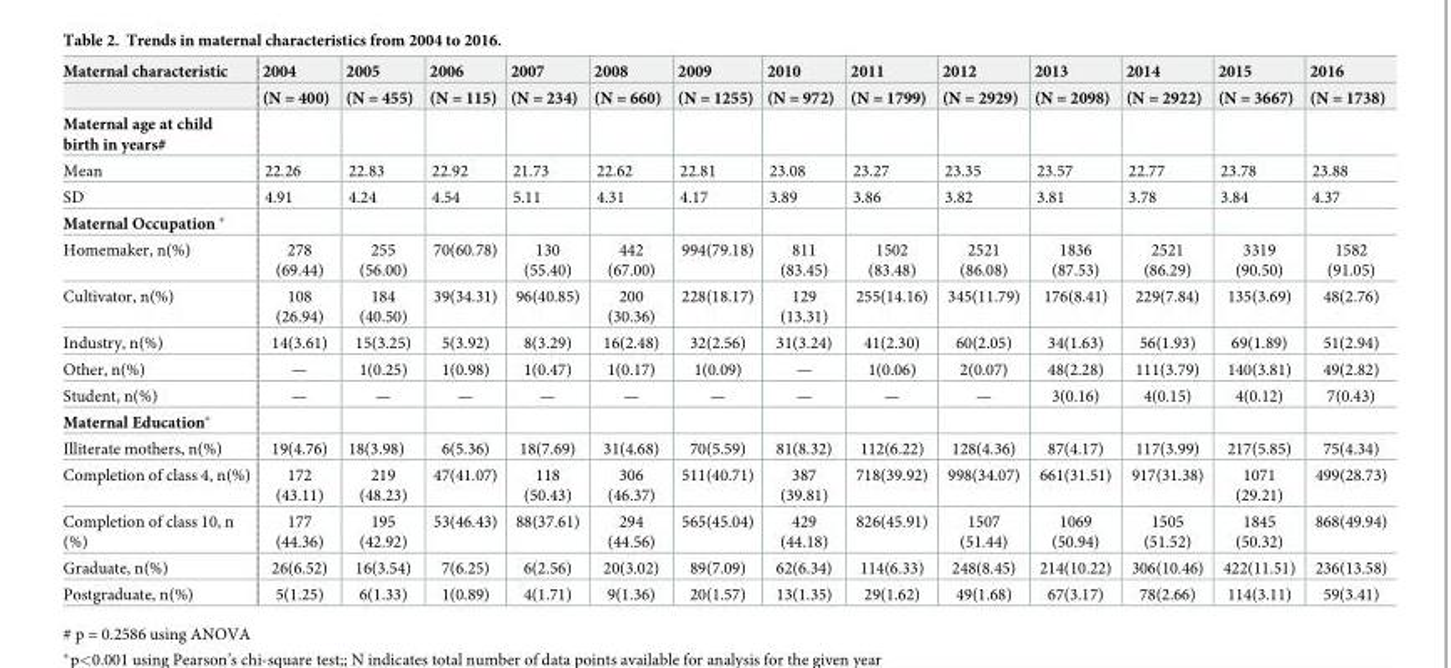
<table><thead><tr><td rowspan="2">Maternal characteristic</td><td rowspan="2">2004 (N = 400)</td><td rowspan="2">2005 (N = 455)</td><td rowspan="2">2006 (N = 115)</td><td rowspan="2">2007 (N = 234)</td><td rowspan="2">2008 (N = 660)</td><td rowspan="2">2009 (N = 1255)</td><td rowspan="2">2010 (N = 972)</td><td rowspan="2">2011 (N = 1799)</td><td rowspan="2">2012 (N = 2929)</td><td rowspan="2">2013 (N = 2098)</td><td rowspan="2">2014 (N = 2922)</td><td rowspan="2">2015 (N = 3667)</td><td rowspan="2">2016 (N = 1738)</td></tr><tr></tr></thead><tbody><tr><td colspan="14">Maternal age at child birth in years#</td></tr><tr><td>Mean</td><td>22.26</td><td>22.83</td><td>22.92</td><td>21.73</td><td>22.62</td><td>22.81</td><td>23.08</td><td>23.27</td><td>23.35</td><td>23.57</td><td>22.77</td><td>23.78</td><td>23.88</td></tr><tr><td>SD</td><td>4.91</td><td>4.24</td><td>4.54</td><td>5.11</td><td>4.31</td><td>4.17</td><td>3.89</td><td>3.86</td><td>3.82</td><td>3.81</td><td>3.78</td><td>3.84</td><td>4.37</td></tr><tr><td colspan="14">Maternal Occupation *</td></tr><tr><td>Homemaker, n(%)</td><td>278 (69.44)</td><td>255 (56.00)</td><td>70(60.78)</td><td>130 (55.40)</td><td>442 (67.00)</td><td>994(79.18)</td><td>811 (83.45)</td><td>1502 (83.48)</td><td>2521 (86.08)</td><td>1836 (87.53)</td><td>2521 (86.29)</td><td>3319 (90.50)</td><td>1582 (91.05)</td></tr><tr><td>Cultivator, n(%)</td><td>108 (26.94)</td><td>184 (40.50)</td><td>39(34.31)</td><td>96(40.85)</td><td>200 (30.36)</td><td>228(18.17)</td><td>129 (13.31)</td><td>255(14.16)</td><td>345(11.79)</td><td>176(8.41)</td><td>229(7.84)</td><td>135(3.69)</td><td>48(2.76)</td></tr><tr><td>Industry, n(%)</td><td>14(3.61)</td><td>15(3.25)</td><td>5(3.92)</td><td>8(3.29)</td><td>16(2.48)</td><td>32(2.56)</td><td>31(3.24)</td><td>41(2.30)</td><td>60(2.05)</td><td>34(1.63)</td><td>56(1.93)</td><td>69(1.89)</td><td>51(2.94)</td></tr><tr><td>Other, n(%)</td><td>—</td><td>1(0.25)</td><td>1(0.98)</td><td>1(0.47)</td><td>1(0.17)</td><td>1(0.09)</td><td>—</td><td>1(0.06)</td><td>2(0.07)</td><td>48(2.28)</td><td>111(3.79)</td><td>140(3.81)</td><td>49(2.82)</td></tr><tr><td>Student, n(%)</td><td>—</td><td>—</td><td>—</td><td>—</td><td>—</td><td>—</td><td>—</td><td>—</td><td>—</td><td>3(0.16)</td><td>4(0.15)</td><td>4(0.12)</td><td>7(0.43)</td></tr><tr><td colspan="14">Maternal Education*</td></tr><tr><td>Illiterate mothers, n(%)</td><td>19(4.76)</td><td>18(3.98)</td><td>6(5.36)</td><td>18(7.69)</td><td>31(4.68)</td><td>70(5.59)</td><td>81(8.32)</td><td>112(6.22)</td><td>128(4.36)</td><td>87(4.17)</td><td>117(3.99)</td><td>217(5.85)</td><td>75(4.34)</td></tr><tr><td>Completion of class 4, n(%)</td><td>172 (43.11)</td><td>219 (48.23)</td><td>47(41.07)</td><td>118 (50.43)</td><td>306 (46.37)</td><td>511(40.71)</td><td>387 (39.81)</td><td>718(39.92)</td><td>998(34.07)</td><td>661(31.51)</td><td>917(31.38)</td><td>1071 (29.21)</td><td>499(28.73)</td></tr><tr><td>Completion of class 10, n (%)</td><td>177 (44.36)</td><td>195 (42.92)</td><td>53(46.43)</td><td>88(37.61)</td><td>294 (44.56)</td><td>565(45.04)</td><td>429 (44.18)</td><td>826(45.91)</td><td>1507 (51.44)</td><td>1069 (50.94)</td><td>1505 (51.52)</td><td>1845 (50.32)</td><td>868(49.94)</td></tr><tr><td>Graduate, n(%)</td><td>26(6.52)</td><td>16(3.54)</td><td>7(6.25)</td><td>6(2.56)</td><td>20(3.02)</td><td>89(7.09)</td><td>62(6.34)</td><td>114(6.33)</td><td>248(8.45)</td><td>214(10.22)</td><td>306(10.46)</td><td>422(11.51)</td><td>236(13.58)</td></tr><tr><td>Postgraduate, n(%)</td><td>5(1.25)</td><td>6(1.33)</td><td>1(0.89)</td><td>4(1.71)</td><td>9(1.36)</td><td>20(1.57)</td><td>13(1.35)</td><td>29(1.62)</td><td>49(1.68)</td><td>67(3.17)</td><td>78(2.66)</td><td>114(3.11)</td><td>59(3.41)</td></tr></tbody></table>